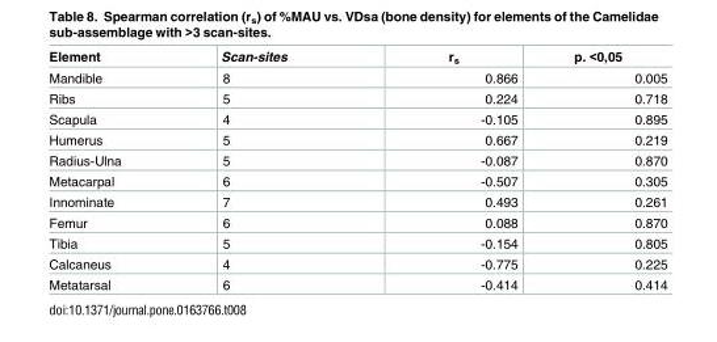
<table><thead><tr><td>Element</td><td>Scan-sites</td><td>r<sub>s</sub></td><td>p. &lt;0,05</td></tr></thead><tbody><tr><td>Mandible</td><td>8</td><td>0.866</td><td>0.005</td></tr><tr><td>Ribs</td><td>5</td><td>0.224</td><td>0.718</td></tr><tr><td>Scapula</td><td>4</td><td>-0.105</td><td>0.895</td></tr><tr><td>Humerus</td><td>5</td><td>0.667</td><td>0.219</td></tr><tr><td>Radius-Ulna</td><td>5</td><td>-0.087</td><td>0.870</td></tr><tr><td>Metacarpal</td><td>6</td><td>-0.507</td><td>0.305</td></tr><tr><td>Innominate</td><td>7</td><td>0.493</td><td>0.261</td></tr><tr><td>Femur</td><td>6</td><td>0.088</td><td>0.870</td></tr><tr><td>Tibia</td><td>5</td><td>-0.154</td><td>0.805</td></tr><tr><td>Calcaneus</td><td>4</td><td>-0.775</td><td>0.225</td></tr><tr><td>Metatarsal</td><td>6</td><td>-0.414</td><td>0.414</td></tr></tbody></table>